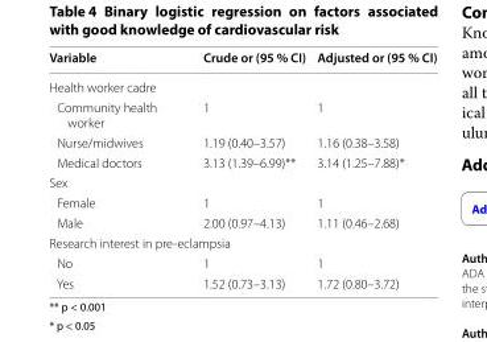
<table><thead><tr><td>Variable</td><td>Crude or (95 % CI)</td><td>Adjusted or (95 % CI)</td></tr></thead><tbody><tr><td colspan="3">Health worker cadre</td></tr><tr><td>Community health worker</td><td>1</td><td>1</td></tr><tr><td>Nurse/midwives</td><td>1.19 (0.40–3.57)</td><td>1.16 (0.38–3.58)</td></tr><tr><td>Medical doctors</td><td>3.13 (1.39–6.99)**</td><td>3.14 (1.25–7.88)*</td></tr><tr><td colspan="3">Sex</td></tr><tr><td>Female</td><td>1</td><td>1</td></tr><tr><td>Male</td><td>2.00 (0.97–4.13)</td><td>1.11 (0.46–2.68)</td></tr><tr><td colspan="3">Research interest in pre-eclampsia</td></tr><tr><td>No</td><td>1</td><td>1</td></tr><tr><td>Yes</td><td>1.52 (0.73–3.13)</td><td>1.72 (0.80–3.72)</td></tr></tbody></table>